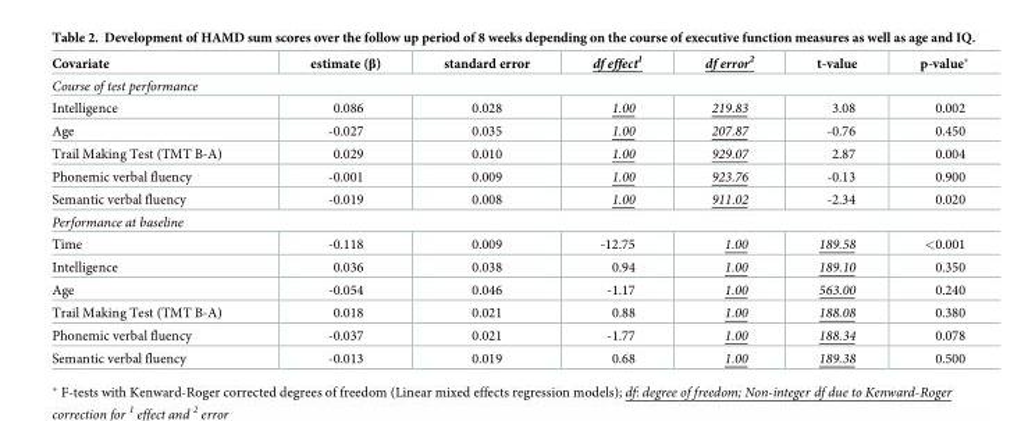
<table><thead><tr><td>Covariate</td><td>estimate (β)</td><td>standard error</td><td>df effect<sup>1</sup></td><td>df error<sup>2</sup></td><td>t-value</td><td>p-value*</td></tr></thead><tbody><tr><td colspan="7">Course of test performance</td></tr><tr><td>Intelligence</td><td>0.086</td><td>0.028</td><td>1.00</td><td>219.83</td><td>3.08</td><td>0.002</td></tr><tr><td>Age</td><td>-0.027</td><td>0.035</td><td>1.00</td><td>207.87</td><td>-0.76</td><td>0.450</td></tr><tr><td>Trail Making Test (TMT B-A)</td><td>0.029</td><td>0.010</td><td>1.00</td><td>929.07</td><td>2.87</td><td>0.004</td></tr><tr><td>Phonemic verbal fluency</td><td>-0.001</td><td>0.009</td><td>1.00</td><td>923.76</td><td>-0.13</td><td>0.900</td></tr><tr><td>Semantic verbal fluency</td><td>-0.019</td><td>0.008</td><td>1.00</td><td>911.02</td><td>-2.34</td><td>0.020</td></tr><tr><td colspan="7">Performance at baseline</td></tr><tr><td>Time</td><td>-0.118</td><td>0.009</td><td>-12.75</td><td>1.00</td><td>189.58</td><td>&lt;0.001</td></tr><tr><td>Intelligence</td><td>0.036</td><td>0.038</td><td>0.94</td><td>1.00</td><td>189.10</td><td>0.350</td></tr><tr><td>Age</td><td>-0.054</td><td>0.046</td><td>-1.17</td><td>1.00</td><td>563.00</td><td>0.240</td></tr><tr><td>Trail Making Test (TMT B-A)</td><td>0.018</td><td>0.021</td><td>0.88</td><td>1.00</td><td>188.08</td><td>0.380</td></tr><tr><td>Phonemic verbal fluency</td><td>-0.037</td><td>0.021</td><td>-1.77</td><td>1.00</td><td>188.34</td><td>0.078</td></tr><tr><td>Semantic verbal fluency</td><td>-0.013</td><td>0.019</td><td>0.68</td><td>1.00</td><td>189.38</td><td>0.500</td></tr></tbody></table>